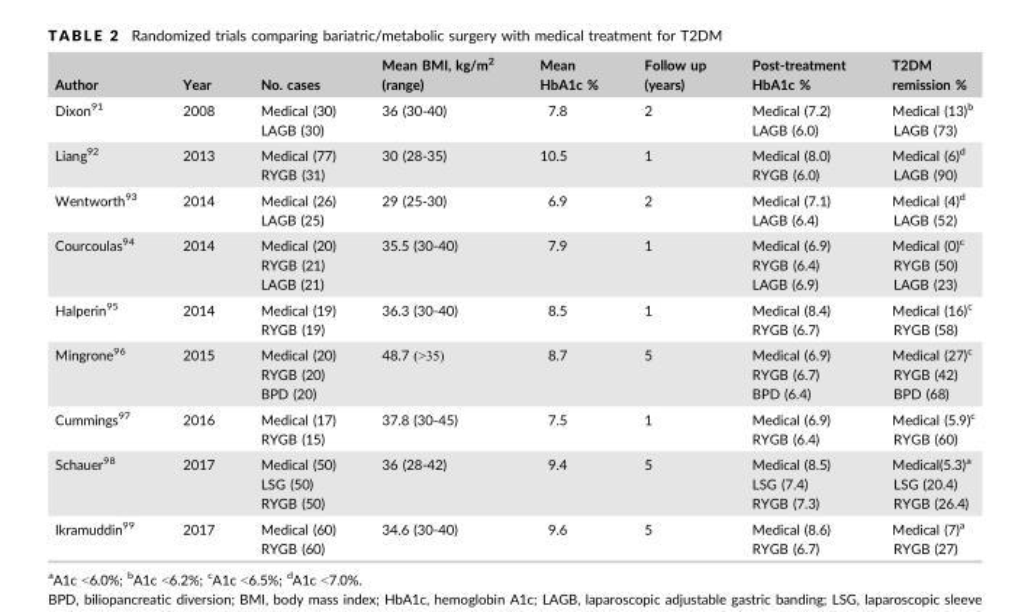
<table><thead><tr><td>Author</td><td>Year</td><td>No. cases</td><td>Mean BMI, kg/m<sup>2</sup> (range)</td><td>Mean HbA1c %</td><td>Follow up (years)</td><td>Post-treatment HbA1c %</td><td>T2DM remission %</td></tr></thead><tbody><tr><td>Dixon<sup>91</sup></td><td>2008</td><td>Medical (30) LAGB (30)</td><td>36 (30-40)</td><td>7.8</td><td>2</td><td>Medical (7.2) LAGB (6.0)</td><td>Medical (13)<sup>b</sup> LAGB (73)</td></tr><tr><td>Liang<sup>92</sup></td><td>2013</td><td>Medical (77) RYGB (31)</td><td>30 (28-35)</td><td>10.5</td><td>1</td><td>Medical (8.0) RYGB (6.0)</td><td>Medical (6)<sup>d</sup> LAGB (90)</td></tr><tr><td>Wentworth<sup>93</sup></td><td>2014</td><td>Medical (26) LAGB (25)</td><td>29 (25-30)</td><td>6.9</td><td>2</td><td>Medical (7.1) LAGB (6.4)</td><td>Medical (4)<sup>d</sup> LAGB (52)</td></tr><tr><td>Courcoulas<sup>94</sup></td><td>2014</td><td>Medical (20) RYGB (21) LAGB (21)</td><td>35.5 (30-40)</td><td>7.9</td><td>1</td><td>Medical (6.9) RYGB (6.4) LAGB (6.9)</td><td>Medical (0)<sup>c</sup> RYGB (50) LAGB (23)</td></tr><tr><td>Halperin<sup>95</sup></td><td>2014</td><td>Medical (19) RYGB (19)</td><td>36.3 (30-40)</td><td>8.5</td><td>1</td><td>Medical (8.4) RYGB (6.7)</td><td>Medical (16)<sup>c</sup> RYGB (58)</td></tr><tr><td>Mingrone<sup>96</sup></td><td>2015</td><td>Medical (20) RYGB (20) BPD (20)</td><td>48.7 (&gt;35)</td><td>8.7</td><td>5</td><td>Medical (6.9) RYGB (6.7) BPD (6.4)</td><td>Medical (27)<sup>c</sup> RYGB (42) BPD (68)</td></tr><tr><td>Cummings<sup>97</sup></td><td>2016</td><td>Medical (17) RYGB (15)</td><td>37.8 (30-45)</td><td>7.5</td><td>1</td><td>Medical (6.9) RYGB (6.4)</td><td>Medical (5.9)<sup>c</sup> RYGB (60)</td></tr><tr><td>Schauer<sup>98</sup></td><td>2017</td><td>Medical (50) LSG (50) RYGB (50)</td><td>36 (28-42)</td><td>9.4</td><td>5</td><td>Medical (8.5) LSG (7.4) RYGB (7.3)</td><td>Medical(5.3)<sup>a</sup> LSG (20.4) RYGB (26.4)</td></tr><tr><td>Ikramuddin<sup>99</sup></td><td>2017</td><td>Medical (60) RYGB (60)</td><td>34.6 (30-40)</td><td>9.6</td><td>5</td><td>Medical (8.6) RYGB (6.7)</td><td>Medical (7)<sup>a</sup> RYGB (27)</td></tr></tbody></table>